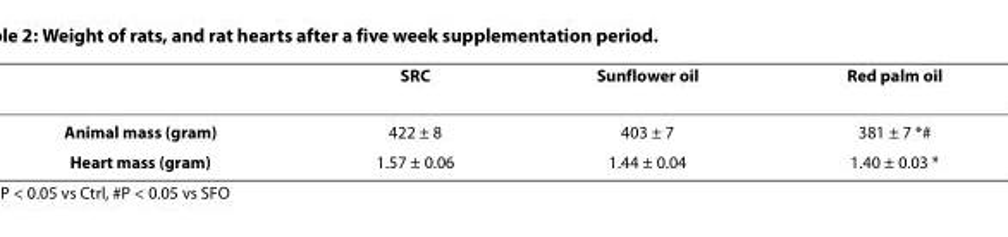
<table><thead><tr><td></td><td>SRC</td><td>Sunflower oil</td><td>Red palm oil</td></tr></thead><tbody><tr><td>Animal mass (gram)</td><td>422 ± 8</td><td>403 ± 7</td><td>381 ± 7 *#</td></tr><tr><td>Heart mass (gram)</td><td>1.57 ± 0.06</td><td>1.44 ± 0.04</td><td>1.40 ± 0.03 *</td></tr></tbody></table>